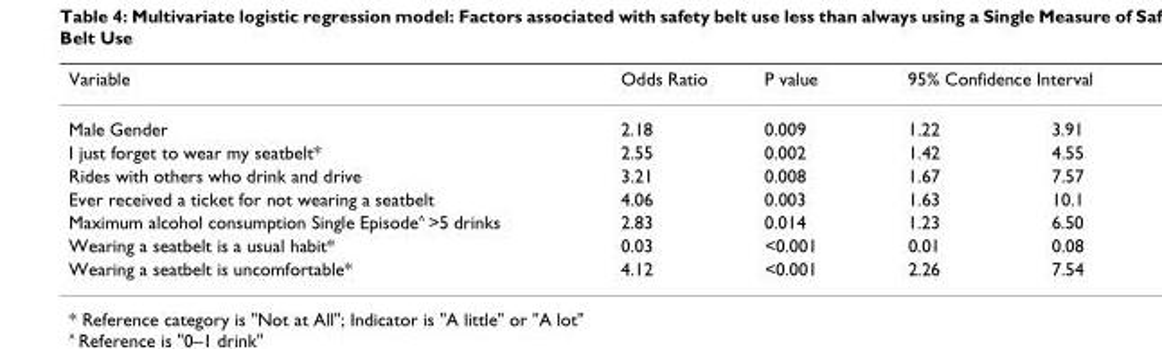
<table><thead><tr><td rowspan="2">Variable Male Gender</td><td rowspan="2">Odds Ratio 2.18</td><td rowspan="2">P value 0.009</td><td colspan="2">95% Confidence Interval</td></tr><tr><td>1.22</td><td>3.91</td></tr></thead><tbody><tr><td>I just forget to wear my seatbelt*</td><td>2.55</td><td>0.002</td><td>1.42</td><td>4.55</td></tr><tr><td>Rides with others who drink and drive</td><td>3.21</td><td>0.008</td><td>1.67</td><td>7.57</td></tr><tr><td>Ever received a ticket for not wearing a seatbelt</td><td>4.06</td><td>0.003</td><td>1.63</td><td>10.1</td></tr><tr><td>Maximum alcohol consumption Single Episode^ &gt;5 drinks</td><td>2.83</td><td>0.014</td><td>1.23</td><td>6.50</td></tr><tr><td>Wearing a seatbelt is a usual habit*</td><td>0.03</td><td>&lt;0.001</td><td>0.01</td><td>0.08</td></tr><tr><td>Wearing a seatbelt is uncomfortable*</td><td>4.12</td><td>&lt;0.001</td><td>2.26</td><td>7.54</td></tr></tbody></table>